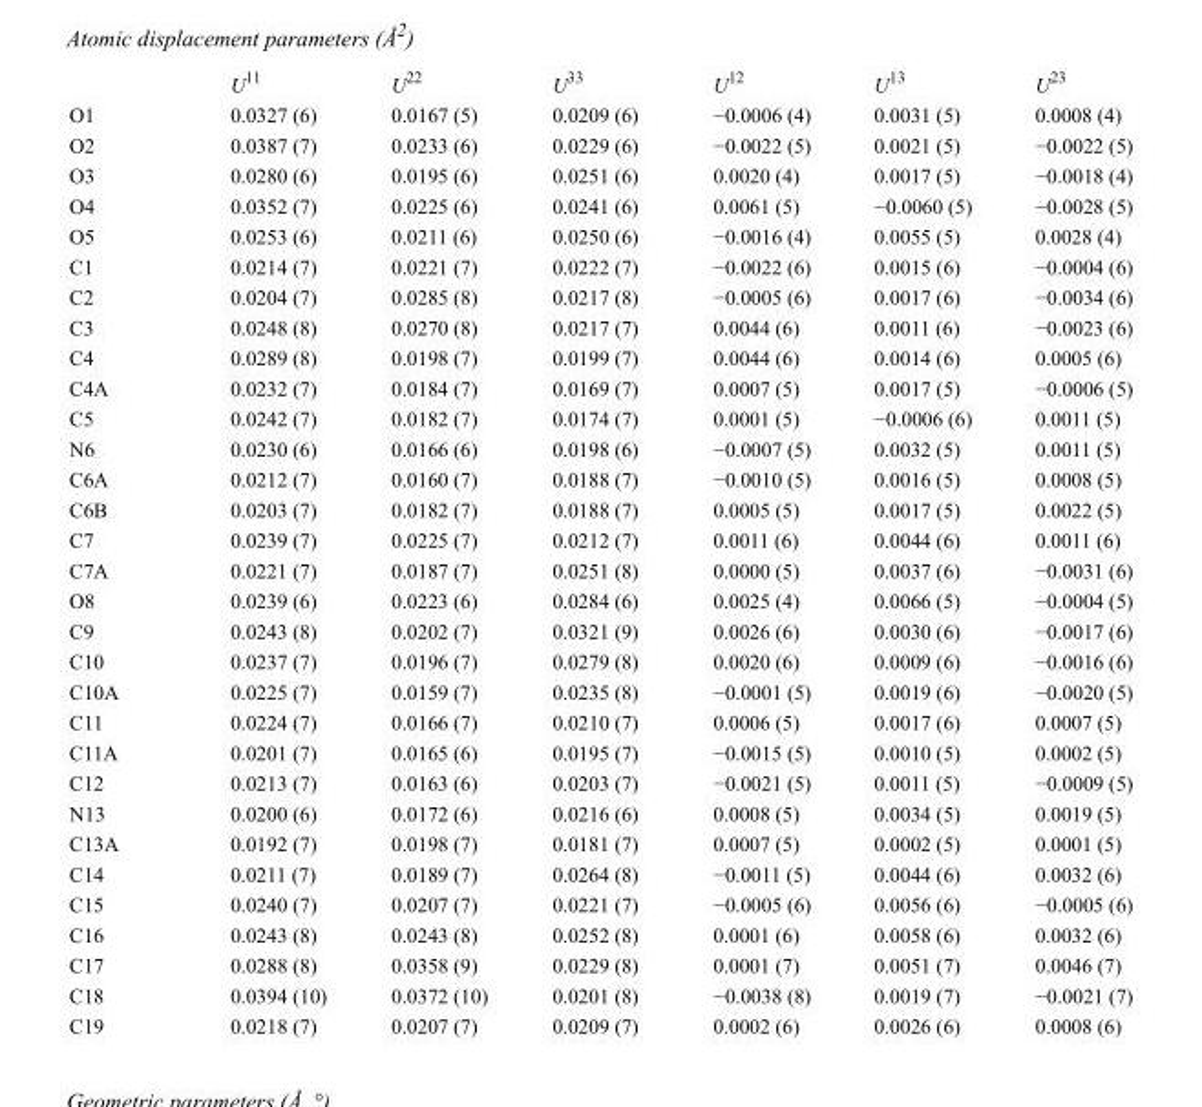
<table><thead><tr><td></td><td>U<sup>11</sup></td><td>U<sup>22</sup></td><td>U<sup>33</sup></td><td>U<sup>12</sup></td><td>U<sup>13</sup></td><td>U<sup>23</sup></td></tr></thead><tbody><tr><td>O1</td><td>0.0327 (6)</td><td>0.0167 (5)</td><td>0.0209 (6)</td><td>−0.0006 (4)</td><td>0.0031 (5)</td><td>0.0008 (4)</td></tr><tr><td>O2</td><td>0.0387 (7)</td><td>0.0233 (6)</td><td>0.0229 (6)</td><td>−0.0022 (5)</td><td>0.0021 (5)</td><td>−0.0022 (5)</td></tr><tr><td>O3</td><td>0.0280 (6)</td><td>0.0195 (6)</td><td>0.0251 (6)</td><td>0.0020 (4)</td><td>0.0017 (5)</td><td>−0.0018 (4)</td></tr><tr><td>O4</td><td>0.0352 (7)</td><td>0.0225 (6)</td><td>0.0241 (6)</td><td>0.0061 (5)</td><td>−0.0060 (5)</td><td>−0.0028 (5)</td></tr><tr><td>O5</td><td>0.0253 (6)</td><td>0.0211 (6)</td><td>0.0250 (6)</td><td>−0.0016 (4)</td><td>0.0055 (5)</td><td>0.0028 (4)</td></tr><tr><td>C1</td><td>0.0214 (7)</td><td>0.0221 (7)</td><td>0.0222 (7)</td><td>−0.0022 (6)</td><td>0.0015 (6)</td><td>−0.0004 (6)</td></tr><tr><td>C2</td><td>0.0204 (7)</td><td>0.0285 (8)</td><td>0.0217 (8)</td><td>−0.0005 (6)</td><td>0.0017 (6)</td><td>−0.0034 (6)</td></tr><tr><td>C3</td><td>0.0248 (8)</td><td>0.0270 (8)</td><td>0.0217 (7)</td><td>0.0044 (6)</td><td>0.0011 (6)</td><td>−0.0023 (6)</td></tr><tr><td>C4</td><td>0.0289 (8)</td><td>0.0198 (7)</td><td>0.0199 (7)</td><td>0.0044 (6)</td><td>0.0014 (6)</td><td>0.0005 (6)</td></tr><tr><td>C4A</td><td>0.0232 (7)</td><td>0.0184 (7)</td><td>0.0169 (7)</td><td>0.0007 (5)</td><td>0.0017 (5)</td><td>−0.0006 (5)</td></tr><tr><td>C5</td><td>0.0242 (7)</td><td>0.0182 (7)</td><td>0.0174 (7)</td><td>0.0001 (5)</td><td>−0.0006 (6)</td><td>0.0011 (5)</td></tr><tr><td>N6</td><td>0.0230 (6)</td><td>0.0166 (6)</td><td>0.0198 (6)</td><td>−0.0007 (5)</td><td>0.0032 (5)</td><td>0.0011 (5)</td></tr><tr><td>C6A</td><td>0.0212 (7)</td><td>0.0160 (7)</td><td>0.0188 (7)</td><td>−0.0010 (5)</td><td>0.0016 (5)</td><td>0.0008 (5)</td></tr><tr><td>C6B</td><td>0.0203 (7)</td><td>0.0182 (7)</td><td>0.0188 (7)</td><td>0.0005 (5)</td><td>0.0017 (5)</td><td>0.0022 (5)</td></tr><tr><td>C7</td><td>0.0239 (7)</td><td>0.0225 (7)</td><td>0.0212 (7)</td><td>0.0011 (6)</td><td>0.0044 (6)</td><td>0.0011 (6)</td></tr><tr><td>C7A</td><td>0.0221 (7)</td><td>0.0187 (7)</td><td>0.0251 (8)</td><td>0.0000 (5)</td><td>0.0037 (6)</td><td>−0.0031 (6)</td></tr><tr><td>O8</td><td>0.0239 (6)</td><td>0.0223 (6)</td><td>0.0284 (6)</td><td>0.0025 (4)</td><td>0.0066 (5)</td><td>−0.0004 (5)</td></tr><tr><td>C9</td><td>0.0243 (8)</td><td>0.0202 (7)</td><td>0.0321 (9)</td><td>0.0026 (6)</td><td>0.0030 (6)</td><td>−0.0017 (6)</td></tr><tr><td>C10</td><td>0.0237 (7)</td><td>0.0196 (7)</td><td>0.0279 (8)</td><td>0.0020 (6)</td><td>0.0009 (6)</td><td>−0.0016 (6)</td></tr><tr><td>C10A</td><td>0.0225 (7)</td><td>0.0159 (7)</td><td>0.0235 (8)</td><td>−0.0001 (5)</td><td>0.0019 (6)</td><td>−0.0020 (5)</td></tr><tr><td>C11</td><td>0.0224 (7)</td><td>0.0166 (7)</td><td>0.0210 (7)</td><td>0.0006 (5)</td><td>0.0017 (6)</td><td>0.0007 (5)</td></tr><tr><td>C11A</td><td>0.0201 (7)</td><td>0.0165 (6)</td><td>0.0195 (7)</td><td>−0.0015 (5)</td><td>0.0010 (5)</td><td>0.0002 (5)</td></tr><tr><td>C12</td><td>0.0213 (7)</td><td>0.0163 (6)</td><td>0.0203 (7)</td><td>−0.0021 (5)</td><td>0.0011 (5)</td><td>−0.0009 (5)</td></tr><tr><td>N13</td><td>0.0200 (6)</td><td>0.0172 (6)</td><td>0.0216 (6)</td><td>0.0008 (5)</td><td>0.0034 (5)</td><td>0.0019 (5)</td></tr><tr><td>C13A</td><td>0.0192 (7)</td><td>0.0198 (7)</td><td>0.0181 (7)</td><td>0.0007 (5)</td><td>0.0002 (5)</td><td>0.0001 (5)</td></tr><tr><td>C14</td><td>0.0211 (7)</td><td>0.0189 (7)</td><td>0.0264 (8)</td><td>−0.0011 (5)</td><td>0.0044 (6)</td><td>0.0032 (6)</td></tr><tr><td>C15</td><td>0.0240 (7)</td><td>0.0207 (7)</td><td>0.0221 (7)</td><td>−0.0005 (6)</td><td>0.0056 (6)</td><td>−0.0005 (6)</td></tr><tr><td>C16</td><td>0.0243 (8)</td><td>0.0243 (8)</td><td>0.0252 (8)</td><td>0.0001 (6)</td><td>0.0058 (6)</td><td>0.0032 (6)</td></tr><tr><td>C17</td><td>0.0288 (8)</td><td>0.0358 (9)</td><td>0.0229 (8)</td><td>0.0001 (7)</td><td>0.0051 (7)</td><td>0.0046 (7)</td></tr><tr><td>C18</td><td>0.0394 (10)</td><td>0.0372 (10)</td><td>0.0201 (8)</td><td>−0.0038 (8)</td><td>0.0019 (7)</td><td>−0.0021 (7)</td></tr><tr><td>C19</td><td>0.0218 (7)</td><td>0.0207 (7)</td><td>0.0209 (7)</td><td>0.0002 (6)</td><td>0.0026 (6)</td><td>0.0008 (6)</td></tr></tbody></table>